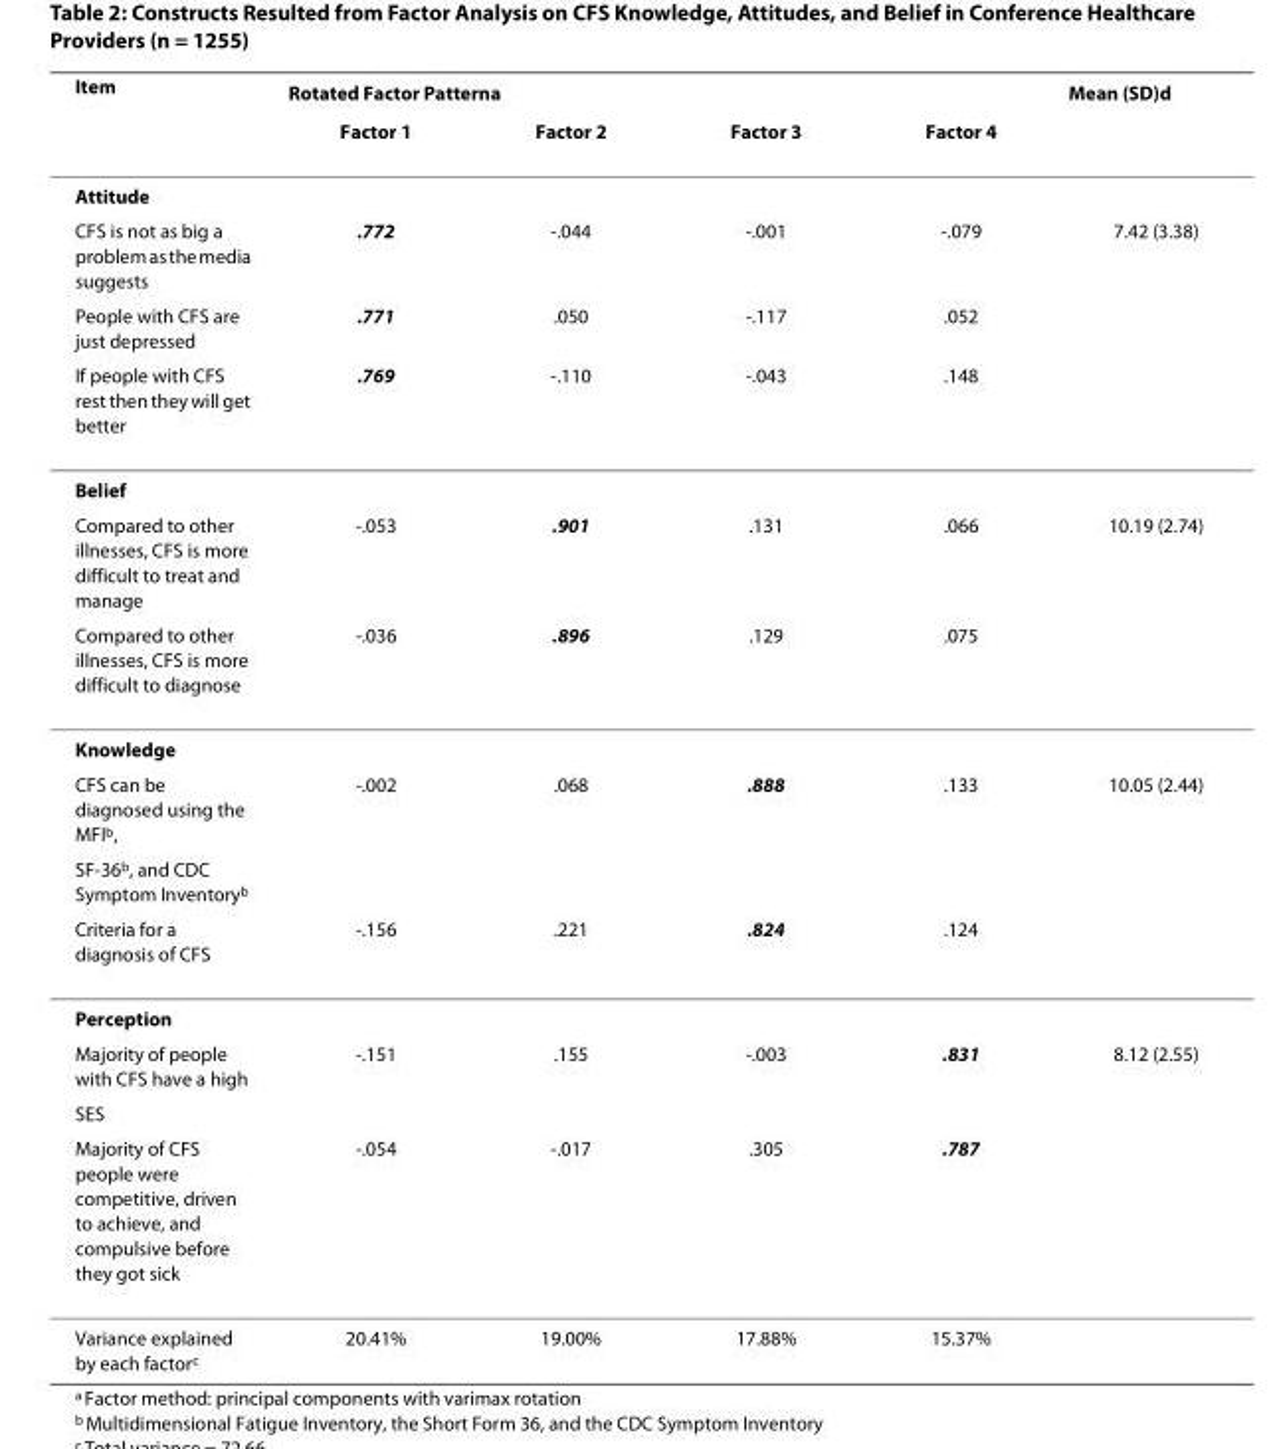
<table><thead><tr><td rowspan="2">Item</td><td colspan="4">Rotated Factor Pattern<sup>a</sup></td><td rowspan="2">Mean (SD)<sup>d</sup></td></tr><tr><td>Factor 1</td><td>Factor 2</td><td>Factor 3</td><td>Factor 4</td></tr></thead><tbody><tr><td colspan="6">Attitude</td></tr><tr><td>CFS is not as big a problem as the media suggests</td><td>.772</td><td>-.044</td><td>-.001</td><td>-.079</td><td>7.42 (3.38)</td></tr><tr><td>People with CFS are just depressed</td><td>.771</td><td>.050</td><td>-.117</td><td>.052</td><td></td></tr><tr><td>If people with CFS rest then they will get better</td><td>.769</td><td>-.110</td><td>-.043</td><td>.148</td><td></td></tr><tr><td colspan="6">Belief</td></tr><tr><td>Compared to other illnesses, CFS is more difficult to treat and manage</td><td>-.053</td><td>.901</td><td>.131</td><td>.066</td><td>10.19 (2.74)</td></tr><tr><td>Compared to other illnesses, CFS is more difficult to diagnose</td><td>-.036</td><td>.896</td><td>.129</td><td>.075</td><td></td></tr><tr><td colspan="6">Knowledge</td></tr><tr><td>CFS can be diagnosed using the MFI<sup>b</sup>,</td><td>-.002</td><td>.068</td><td>.888</td><td>.133</td><td>10.05 (2.44)</td></tr><tr><td colspan="6">SF-36<sup>b</sup>, and CDC Symptom Inventory<sup>b</sup></td></tr><tr><td>Criteria for a diagnosis of CFS</td><td>-.156</td><td>.221</td><td>.824</td><td>.124</td><td></td></tr><tr><td colspan="6">Perception</td></tr><tr><td>Majority of people with CFS have a high</td><td>-.151</td><td>.155</td><td>-.003</td><td>.831</td><td>8.12 (2.55)</td></tr><tr><td colspan="6">SES</td></tr><tr><td>Majority of CFS people were competitive, driven to achieve, and compulsive before they got sick</td><td>-.054</td><td>-.017</td><td>.305</td><td>.787</td><td></td></tr><tr><td>Variance explained by each factor<sup>c</sup></td><td>20.41%</td><td>19.00%</td><td>17.88%</td><td>15.37%</td><td></td></tr></tbody></table>